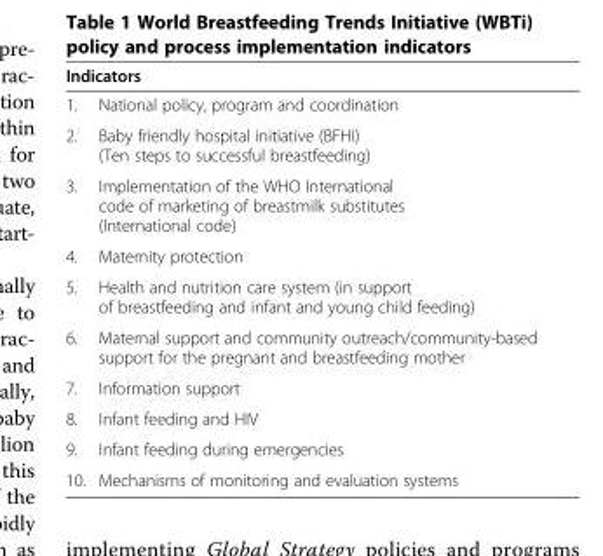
<table><thead><tr><td colspan="2">Indicators</td></tr><tr><td>1.</td><td>National policy, program and coordination</td></tr></thead><tbody><tr><td>2.</td><td>Baby friendly hospital initiative (BFHI) (Ten steps to successful breastfeeding)</td></tr><tr><td>3.</td><td>Implementation of the WHO International code of marketing of breastmilk substitutes (International code)</td></tr><tr><td>4.</td><td>Maternity protection</td></tr><tr><td>5.</td><td>Health and nutrition care system (in support of breastfeeding and infant and young child feeding)</td></tr><tr><td>6.</td><td>Maternal support and community outreach/community-based support for the pregnant and breastfeeding mother</td></tr><tr><td>7.</td><td>Information support</td></tr><tr><td>8.</td><td>Infant feeding and HIV</td></tr><tr><td>9.</td><td>Infant feeding during emergencies</td></tr><tr><td>10.</td><td>Mechanisms of monitoring and evaluation systems</td></tr></tbody></table>